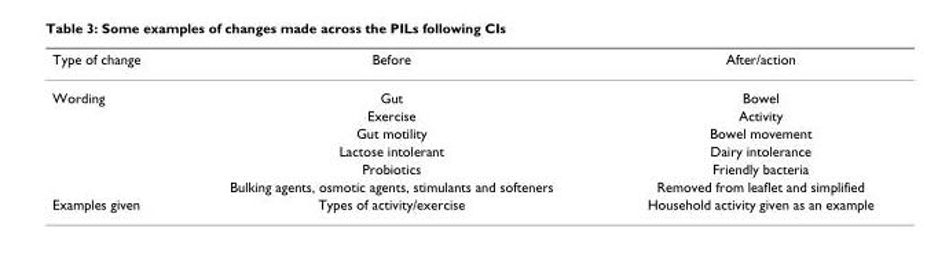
<table><thead><tr><td>Type of change</td><td>Before</td><td>After/action</td></tr></thead><tbody><tr><td rowspan="6">Wording</td><td>Gut</td><td>Bowel</td></tr><tr><td>Exercise</td><td>Activity</td></tr><tr><td>Gut motility</td><td>Bowel movement</td></tr><tr><td>Lactose intolerant</td><td>Dairy intolerance</td></tr><tr><td>Probiotics</td><td>Friendly bacteria</td></tr><tr><td>Bulking agents, osmotic agents, stimulants and softeners</td><td>Removed from leaflet and simplified</td></tr><tr><td>Examples given</td><td>Types of activity/exercise</td><td>Household activity given as an example</td></tr></tbody></table>